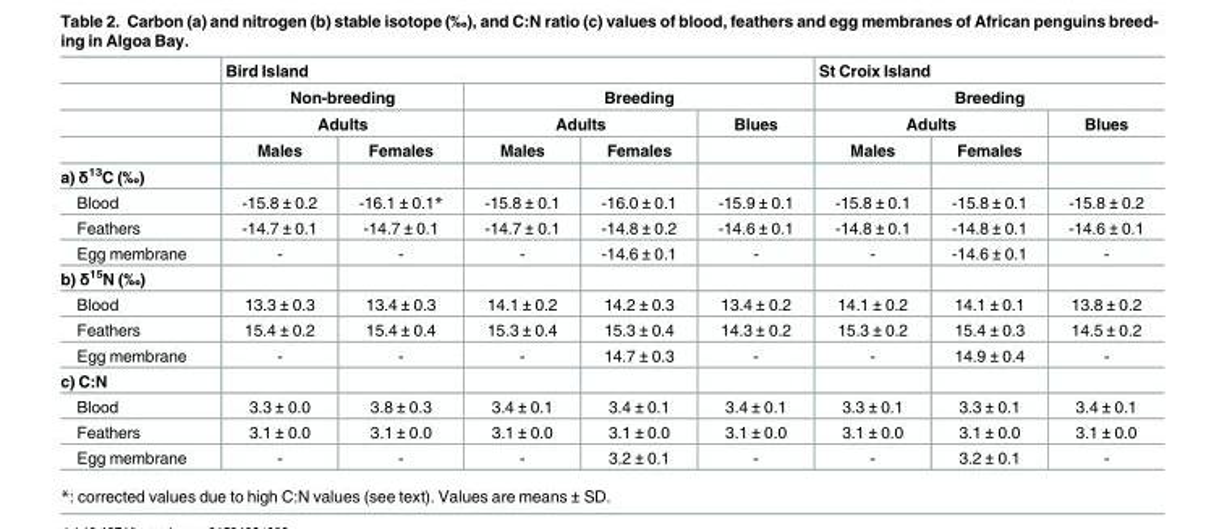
<table><thead><tr><td rowspan="4"></td><td colspan="5">Bird Island</td><td rowspan="2" colspan="3">St Croix Island Breeding</td></tr><tr><td rowspan="2" colspan="2">Non-breeding Adults</td><td colspan="3">Breeding</td></tr><tr><td colspan="2">Adults</td><td rowspan="2">Blues</td><td colspan="2">Adults</td><td rowspan="2">Blues</td></tr><tr><td>Males</td><td>Females</td><td>Males</td><td>Females</td><td>Males</td><td>Females</td></tr></thead><tbody><tr><td colspan="9">a) δ<sup>13</sup>C (‰)</td></tr><tr><td>Blood</td><td>-15.8 ± 0.2</td><td>-16.1 ± 0.1*</td><td>-15.8 ± 0.1</td><td>-16.0 ± 0.1</td><td>-15.9 ± 0.1</td><td>-15.8 ± 0.1</td><td>-15.8 ± 0.1</td><td>-15.8 ± 0.2</td></tr><tr><td>Feathers</td><td>-14.7 ± 0.1</td><td>-14.7 ± 0.1</td><td>-14.7 ± 0.1</td><td>-14.8 ± 0.2</td><td>-14.6 ± 0.1</td><td>-14.8 ± 0.1</td><td>-14.8 ± 0.1</td><td>-14.6 ± 0.1</td></tr><tr><td>Egg membrane</td><td>-</td><td>-</td><td>-</td><td>-14.6 ± 0.1</td><td>-</td><td>-</td><td>-14.6 ± 0.1</td><td>-</td></tr><tr><td colspan="9">b) δ<sup>15</sup>N (‰)</td></tr><tr><td>Blood</td><td>13.3 ± 0.3</td><td>13.4 ± 0.3</td><td>14.1 ± 0.2</td><td>14.2 ± 0.3</td><td>13.4 ± 0.2</td><td>14.1 ± 0.2</td><td>14.1 ± 0.1</td><td>13.8 ± 0.2</td></tr><tr><td>Feathers</td><td>15.4 ± 0.2</td><td>15.4 ± 0.4</td><td>15.3 ± 0.4</td><td>15.3 ± 0.4</td><td>14.3 ± 0.2</td><td>15.3 ± 0.2</td><td>15.4 ± 0.3</td><td>14.5 ± 0.2</td></tr><tr><td>Egg membrane</td><td>-</td><td>-</td><td>-</td><td>14.7 ± 0.3</td><td>-</td><td>-</td><td>14.9 ± 0.4</td><td>-</td></tr><tr><td colspan="9">c) C:N</td></tr><tr><td>Blood</td><td>3.3 ± 0.0</td><td>3.8 ± 0.3</td><td>3.4 ± 0.1</td><td>3.4 ± 0.1</td><td>3.4 ± 0.1</td><td>3.3 ± 0.1</td><td>3.3 ± 0.1</td><td>3.4 ± 0.1</td></tr><tr><td>Feathers</td><td>3.1 ± 0.0</td><td>3.1 ± 0.0</td><td>3.1 ± 0.0</td><td>3.1 ± 0.0</td><td>3.1 ± 0.0</td><td>3.1 ± 0.0</td><td>3.1 ± 0.0</td><td>3.1 ± 0.0</td></tr><tr><td>Egg membrane</td><td>-</td><td>-</td><td>-</td><td>3.2 ± 0.1</td><td>-</td><td>-</td><td>3.2 ± 0.1</td><td>-</td></tr></tbody></table>